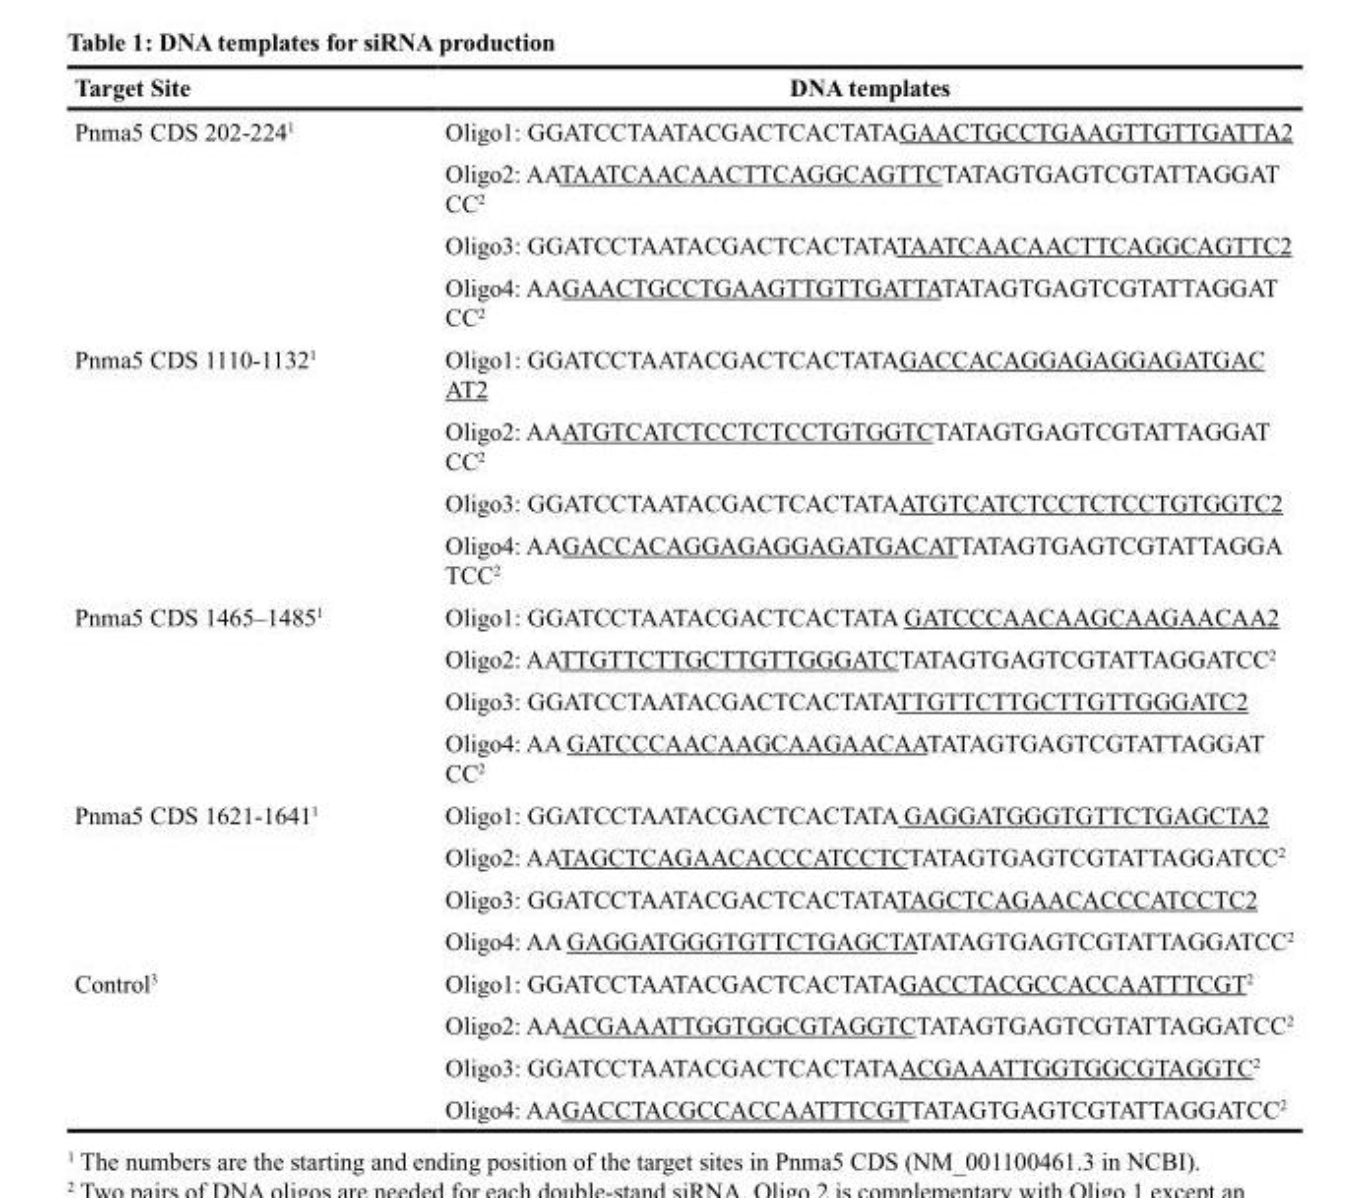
<table><thead><tr><td>Target Site</td><td>DNA templates</td></tr></thead><tbody><tr><td rowspan="4">Pnma5 CDS 202-224<sup>1</sup></td><td>Oligo1: GGATCCTAATACGACTCACTATAGAACTGCCTGAAGTTGTTGATTA2</td></tr><tr><td>Oligo2: AATAATCAACAACTTCAGGCAGTTCTATAGTGAGTCGTATTAGGAT CC<sup>2</sup></td></tr><tr><td>Oligo3: GGATCCTAATACGACTCACTATATAATCAACAACTTCAGGCAGTTC2</td></tr><tr><td>Oligo4: AAGAACTGCCTGAAGTTGTTGATTATATAGTGAGTCGTATTAGGAT CC<sup>2</sup></td></tr><tr><td rowspan="4">Pnma5 CDS 1110-1132<sup>1</sup></td><td>Oligo1: GGATCCTAATACGACTCACTATAGACCACAGGAGAGGAGATGAC AT2</td></tr><tr><td>Oligo2: AAATGTCATCTCCTCTCCTGTGGTCTATAGTGAGTCGTATTAGGAT CC<sup>2</sup></td></tr><tr><td>Oligo3: GGATCCTAATACGACTCACTATAATGTCATCTCCTCTCCTGTGGTC2</td></tr><tr><td>Oligo4: AAGACCACAGGAGAGGAGATGACATTATAGTGAGTCGTATTAGGA TCC<sup>2</sup></td></tr><tr><td rowspan="4">Pnma5 CDS 1465–1485<sup>1</sup></td><td>Oligo1: GGATCCTAATACGACTCACTATA GATCCCAACAAGCAAGAACAA2</td></tr><tr><td>Oligo2: AATTGTTCTTGCTTGTTGGGATCTATAGTGAGTCGTATTAGGATCC<sup>2</sup></td></tr><tr><td>Oligo3: GGATCCTAATACGACTCACTATATTGTTCTTGCTTGTTGGGATC2</td></tr><tr><td>Oligo4: AA GATCCCAACAAGCAAGAACAATATAGTGAGTCGTATTAGGAT CC<sup>2</sup></td></tr><tr><td rowspan="4">Pnma5 CDS 1621-1641<sup>1</sup></td><td>Oligo1: GGATCCTAATACGACTCACTATA GAGGATGGGTGTTCTGAGCTA2</td></tr><tr><td>Oligo2: AATAGCTCAGAACACCCATCCTCTATAGTGAGTCGTATTAGGATCC<sup>2</sup></td></tr><tr><td>Oligo3: GGATCCTAATACGACTCACTATATAGCTCAGAACACCCATCCTC2</td></tr><tr><td>Oligo4: AA GAGGATGGGTGTTCTGAGCTATATAGTGAGTCGTATTAGGATCC<sup>2</sup></td></tr><tr><td rowspan="4">Control<sup>3</sup></td><td>Oligo1: GGATCCTAATACGACTCACTATAGACCTACGCCACCAATTTCGT<sup>2</sup></td></tr><tr><td>Oligo2: AAACGAAATTGGTGGCGTAGGTCTATAGTGAGTCGTATTAGGATCC<sup>2</sup></td></tr><tr><td>Oligo3: GGATCCTAATACGACTCACTATAACGAAATTGGTGGCGTAGGTC<sup>2</sup></td></tr><tr><td>Oligo4: AAGACCTACGCCACCAATTTCGTTATAGTGAGTCGTATTAGGATCC<sup>2</sup></td></tr></tbody></table>